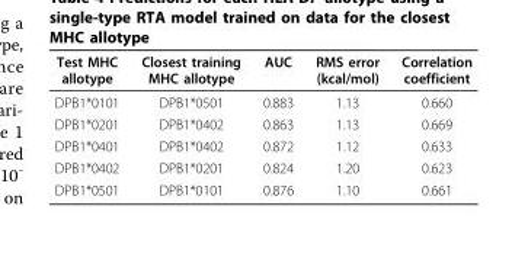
<table><thead><tr><td>Test MHC allotype</td><td>Closest training MHC allotype</td><td>AUC</td><td>RMS error (kcal/mol)</td><td>Correlation coefficient</td></tr></thead><tbody><tr><td>DPB1*0101</td><td>DPB1*0501</td><td>0.883</td><td>1.13</td><td>0.660</td></tr><tr><td>DPB1*0201</td><td>DPB1*0402</td><td>0.863</td><td>1.13</td><td>0.669</td></tr><tr><td>DPB1*0401</td><td>DPB1*0402</td><td>0.872</td><td>1.12</td><td>0.633</td></tr><tr><td>DPB1*0402</td><td>DPB1*0201</td><td>0.824</td><td>1.20</td><td>0.623</td></tr><tr><td>DPB1*0501</td><td>DPB1*0101</td><td>0.876</td><td>1.10</td><td>0.661</td></tr></tbody></table>